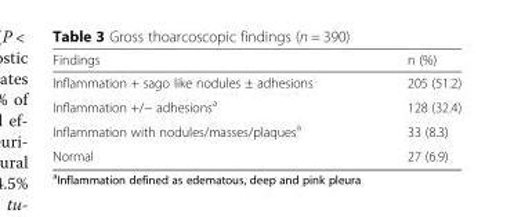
<table><thead><tr><td>Findings</td><td>n (%)</td></tr></thead><tbody><tr><td>Inflammation + sago like nodules ± adhesions</td><td>205 (51.2)</td></tr><tr><td>Inflammation +/− adhesions<sup>a</sup></td><td>128 (32.4)</td></tr><tr><td>Inflammation with nodules/masses/plaques<sup>a</sup></td><td>33 (8.3)</td></tr><tr><td>Normal</td><td>27 (6.9)</td></tr></tbody></table>